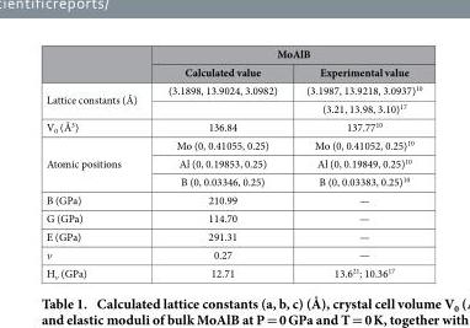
<table><thead><tr><td rowspan="2"></td><td colspan="2">MoAlB</td></tr><tr><td>Calculated value</td><td>Experimental value</td></tr></thead><tbody><tr><td rowspan="2">Lattice constants (Å)</td><td>(3.1898, 13.9024, 3.0982)</td><td>(3.1987, 13.9218, 3.0937)<sup>10</sup></td></tr><tr><td></td><td>(3.21, 13.98, 3.10)<sup>17</sup></td></tr><tr><td>V<sub>0</sub> (Å<sup>3</sup>)</td><td>136.84</td><td>137.77<sup>10</sup></td></tr><tr><td rowspan="3">Atomic positions</td><td>Mo (0, 0.41055, 0.25)</td><td>Mo (0, 0.41052, 0.25)<sup>10</sup></td></tr><tr><td>Al (0, 0.19853, 0.25)</td><td>Al (0, 0.19849, 0.25)<sup>10</sup></td></tr><tr><td>B (0, 0.03346, 0.25)</td><td>B (0, 0.03383, 0.25)<sup>10</sup></td></tr><tr><td>B (GPa)</td><td>210.99</td><td>—</td></tr><tr><td>G (GPa)</td><td>114.70</td><td>—</td></tr><tr><td>E (GPa)</td><td>291.31</td><td>—</td></tr><tr><td>ν</td><td>0.27</td><td>—</td></tr><tr><td>H<sub>ν</sub> (GPa)</td><td>12.71</td><td>13.6<sup>21</sup>; 10.36<sup>17</sup></td></tr></tbody></table>